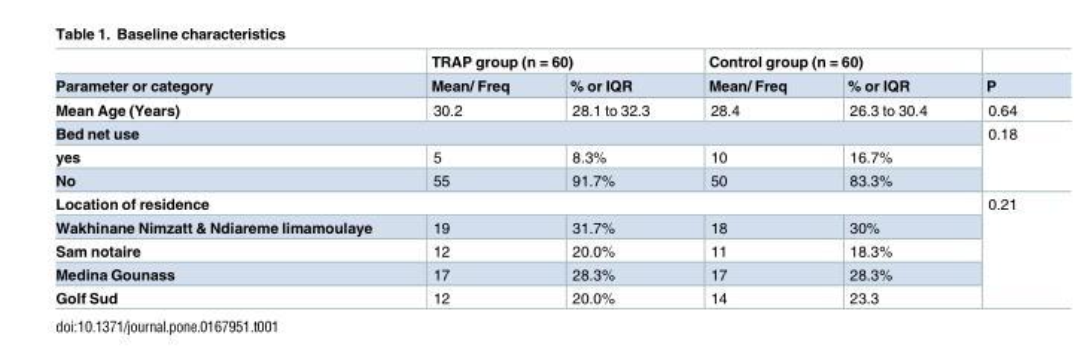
<table><thead><tr><td rowspan="2">Parameter or category</td><td colspan="2">TRAP group (n = 60)</td><td colspan="2">Control group (n = 60)</td><td rowspan="2">P</td></tr><tr><td>Mean/ Freq</td><td>% or IQR</td><td>Mean/ Freq</td><td>% or IQR</td></tr></thead><tbody><tr><td>Mean Age (Years)</td><td>30.2</td><td>28.1 to 32.3</td><td>28.4</td><td>26.3 to 30.4</td><td>0.64</td></tr><tr><td colspan="5">Bed net use</td><td rowspan="3">0.18</td></tr><tr><td>yes</td><td>5</td><td>8.3%</td><td>10</td><td>16.7%</td></tr><tr><td>No</td><td>55</td><td>91.7%</td><td>50</td><td>83.3%</td></tr><tr><td colspan="5">Location of residence</td><td rowspan="5">0.21</td></tr><tr><td>Wakhinane Nimzatt &amp; Ndiareme limamoulaye</td><td>19</td><td>31.7%</td><td>18</td><td>30%</td></tr><tr><td>Sam notaire</td><td>12</td><td>20.0%</td><td>11</td><td>18.3%</td></tr><tr><td>Medina Gounass</td><td>17</td><td>28.3%</td><td>17</td><td>28.3%</td></tr><tr><td>Golf Sud</td><td>12</td><td>20.0%</td><td>14</td><td>23.3</td></tr></tbody></table>